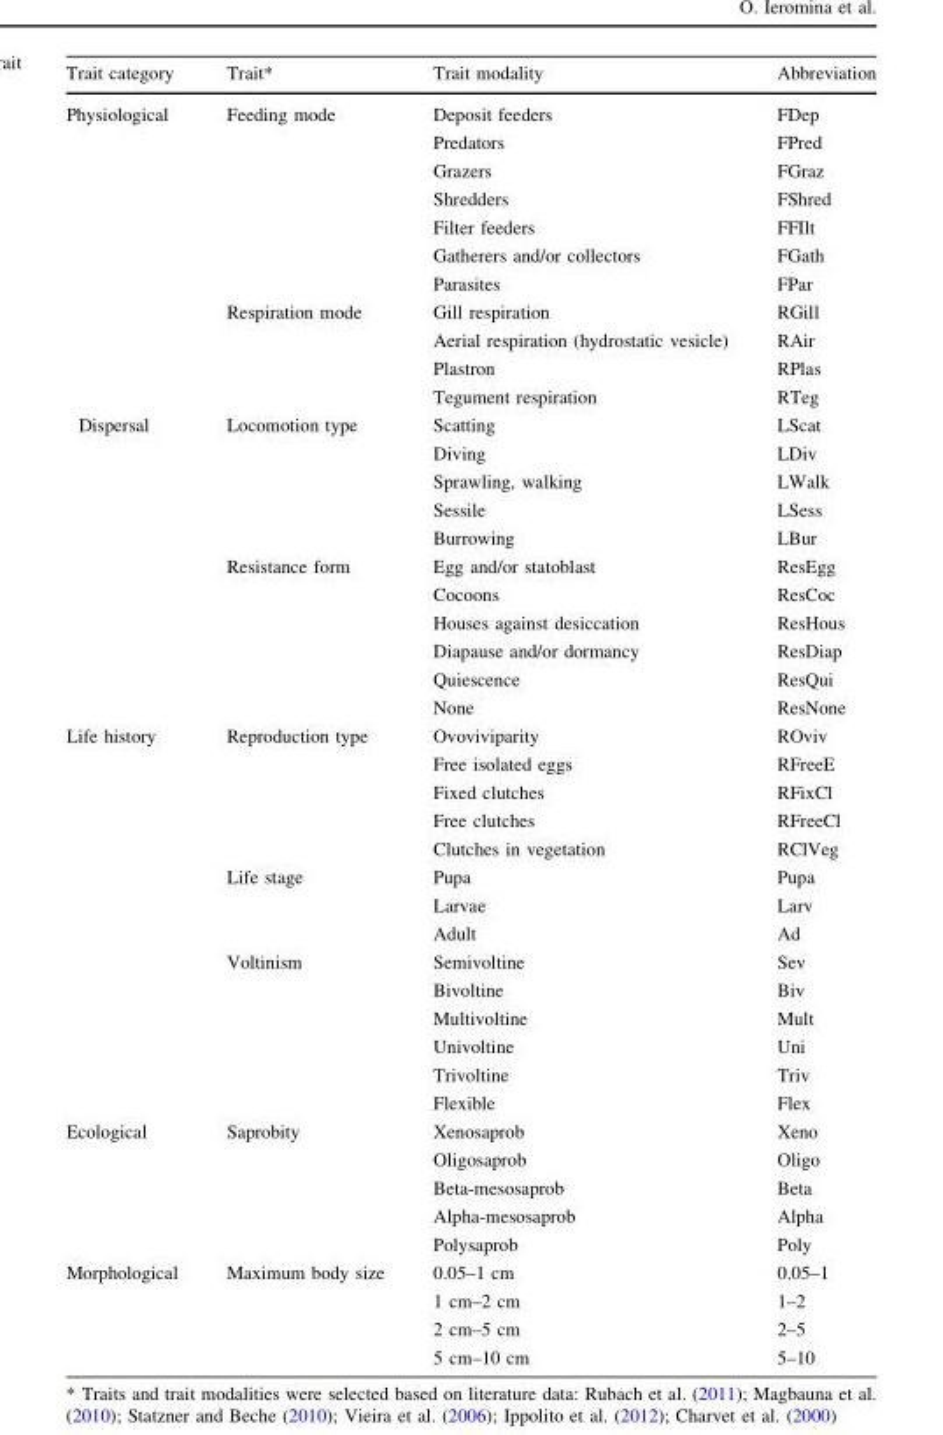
<table><thead><tr><td>Trait category</td><td>Trait*</td><td>Trait modality</td><td>Abbreviation</td></tr></thead><tbody><tr><td rowspan="11">Physiological</td><td>Feeding mode</td><td>Deposit feeders</td><td>FDep</td></tr><tr><td></td><td>Predators</td><td>FPred</td></tr><tr><td></td><td>Grazers</td><td>FGraz</td></tr><tr><td></td><td>Shredders</td><td>FShred</td></tr><tr><td></td><td>Filter feeders</td><td>FFIlt</td></tr><tr><td></td><td>Gatherers and/or collectors</td><td>FGath</td></tr><tr><td></td><td>Parasites</td><td>FPar</td></tr><tr><td>Respiration mode</td><td>Gill respiration</td><td>RGill</td></tr><tr><td></td><td>Aerial respiration (hydrostatic vesicle)</td><td>RAir</td></tr><tr><td></td><td>Plastron</td><td>RPlas</td></tr><tr><td></td><td>Tegument respiration</td><td>RTeg</td></tr><tr><td rowspan="11">Dispersal</td><td>Locomotion type</td><td>Scatting</td><td>LScat</td></tr><tr><td></td><td>Diving</td><td>LDiv</td></tr><tr><td></td><td>Sprawling, walking</td><td>LWalk</td></tr><tr><td></td><td>Sessile</td><td>LSess</td></tr><tr><td></td><td>Burrowing</td><td>LBur</td></tr><tr><td>Resistance form</td><td>Egg and/or statoblast</td><td>ResEgg</td></tr><tr><td></td><td>Cocoons</td><td>ResCoc</td></tr><tr><td></td><td>Houses against desiccation</td><td>ResHous</td></tr><tr><td></td><td>Diapause and/or dormancy</td><td>ResDiap</td></tr><tr><td></td><td>Quiescence</td><td>ResQui</td></tr><tr><td></td><td>None</td><td>ResNone</td></tr><tr><td rowspan="14">Life history</td><td>Reproduction type</td><td>Ovoviviparity</td><td>ROviv</td></tr><tr><td></td><td>Free isolated eggs</td><td>RFreeE</td></tr><tr><td></td><td>Fixed clutches</td><td>RFixCl</td></tr><tr><td></td><td>Free clutches</td><td>RFreeCl</td></tr><tr><td></td><td>Clutches in vegetation</td><td>RClVeg</td></tr><tr><td>Life stage</td><td>Pupa</td><td>Pupa</td></tr><tr><td></td><td>Larvae</td><td>Larv</td></tr><tr><td></td><td>Adult</td><td>Ad</td></tr><tr><td>Voltinism</td><td>Semivoltine</td><td>Sev</td></tr><tr><td></td><td>Bivoltine</td><td>Biv</td></tr><tr><td></td><td>Multivoltine</td><td>Mult</td></tr><tr><td></td><td>Univoltine</td><td>Uni</td></tr><tr><td></td><td>Trivoltine</td><td>Triv</td></tr><tr><td></td><td>Flexible</td><td>Flex</td></tr><tr><td rowspan="5">Ecological</td><td>Saprobity</td><td>Xenosaprob</td><td>Xeno</td></tr><tr><td></td><td>Oligosaprob</td><td>Oligo</td></tr><tr><td></td><td>Beta-mesosaprob</td><td>Beta</td></tr><tr><td></td><td>Alpha-mesosaprob</td><td>Alpha</td></tr><tr><td></td><td>Polysaprob</td><td>Poly</td></tr><tr><td rowspan="4">Morphological</td><td>Maximum body size</td><td>0.05–1 cm</td><td>0.05–1</td></tr><tr><td></td><td>1 cm–2 cm</td><td>1–2</td></tr><tr><td></td><td>2 cm–5 cm</td><td>2–5</td></tr><tr><td></td><td>5 cm–10 cm</td><td>5–10</td></tr></tbody></table>